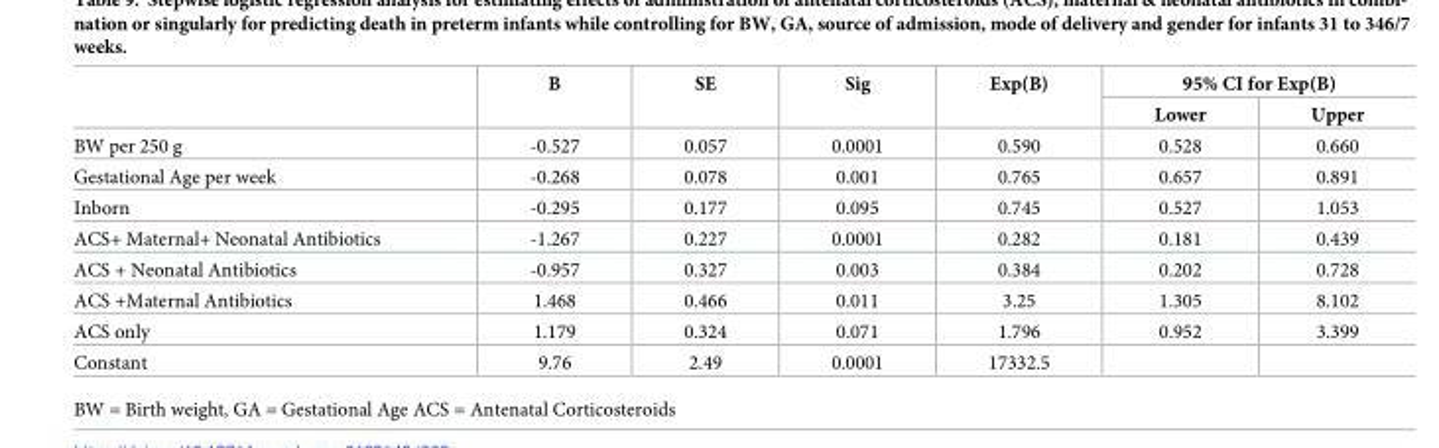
<table><thead><tr><td rowspan="2"></td><td rowspan="2">B</td><td rowspan="2">SE</td><td rowspan="2">Sig</td><td rowspan="2">Exp(B)</td><td colspan="2">95% CI for Exp(B)</td></tr><tr><td>Lower</td><td>Upper</td></tr></thead><tbody><tr><td>BW per 250 g</td><td>-0.527</td><td>0.057</td><td>0.0001</td><td>0.590</td><td>0.528</td><td>0.660</td></tr><tr><td>Gestational Age per week</td><td>-0.268</td><td>0.078</td><td>0.001</td><td>0.765</td><td>0.657</td><td>0.891</td></tr><tr><td>Inborn</td><td>-0.295</td><td>0.177</td><td>0.095</td><td>0.745</td><td>0.527</td><td>1.053</td></tr><tr><td>ACS+ Maternal+ Neonatal Antibiotics</td><td>-1.267</td><td>0.227</td><td>0.0001</td><td>0.282</td><td>0.181</td><td>0.439</td></tr><tr><td>ACS + Neonatal Antibiotics</td><td>-0.957</td><td>0.327</td><td>0.003</td><td>0.384</td><td>0.202</td><td>0.728</td></tr><tr><td>ACS +Maternal Antibiotics</td><td>1.468</td><td>0.466</td><td>0.011</td><td>3.25</td><td>1.305</td><td>8.102</td></tr><tr><td>ACS only</td><td>1.179</td><td>0.324</td><td>0.071</td><td>1.796</td><td>0.952</td><td>3.399</td></tr><tr><td>Constant</td><td>9.76</td><td>2.49</td><td>0.0001</td><td>17332.5</td><td></td><td></td></tr></tbody></table>